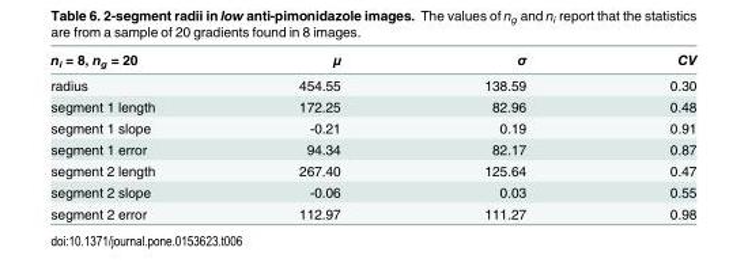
<table><thead><tr><td>n<sub>i</sub> = 8, n<sub>g</sub> = 20</td><td>μ</td><td>σ</td><td>CV</td></tr></thead><tbody><tr><td>radius</td><td>454.55</td><td>138.59</td><td>0.30</td></tr><tr><td>segment 1 length</td><td>172.25</td><td>82.96</td><td>0.48</td></tr><tr><td>segment 1 slope</td><td>-0.21</td><td>0.19</td><td>0.91</td></tr><tr><td>segment 1 error</td><td>94.34</td><td>82.17</td><td>0.87</td></tr><tr><td>segment 2 length</td><td>267.40</td><td>125.64</td><td>0.47</td></tr><tr><td>segment 2 slope</td><td>-0.06</td><td>0.03</td><td>0.55</td></tr><tr><td>segment 2 error</td><td>112.97</td><td>111.27</td><td>0.98</td></tr></tbody></table>